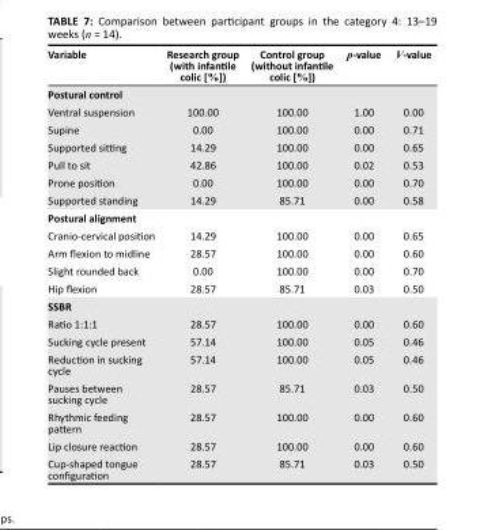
<table><thead><tr><td>Variable</td><td>Research group (with infantile colic [%])</td><td>Control group (without infantile colic [%])</td><td>p-value</td><td>V-value</td></tr></thead><tbody><tr><td colspan="5">Postural control</td></tr><tr><td>Ventral suspension</td><td>100.00</td><td>100.00</td><td>1.00</td><td>0.00</td></tr><tr><td>Supine</td><td>0.00</td><td>100.00</td><td>0.00</td><td>0.71</td></tr><tr><td>Supported sitting</td><td>14.29</td><td>100.00</td><td>0.00</td><td>0.65</td></tr><tr><td>Pull to sit</td><td>42.86</td><td>100.00</td><td>0.02</td><td>0.53</td></tr><tr><td>Prone position</td><td>0.00</td><td>100.00</td><td>0.00</td><td>0.70</td></tr><tr><td>Supported standing</td><td>14.29</td><td>85.71</td><td>0.00</td><td>0.58</td></tr><tr><td colspan="5">Postural alignment</td></tr><tr><td>Cranio-cervical position</td><td>14.29</td><td>100.00</td><td>0.00</td><td>0.65</td></tr><tr><td>Arm flexion to midline</td><td>28.57</td><td>100.00</td><td>0.00</td><td>0.60</td></tr><tr><td>Slight rounded back</td><td>0.00</td><td>100.00</td><td>0.00</td><td>0.70</td></tr><tr><td>Hip flexion</td><td>28.57</td><td>85.71</td><td>0.03</td><td>0.50</td></tr><tr><td colspan="5">SSBR</td></tr><tr><td>Ratio 1:1:1</td><td>28.57</td><td>100.00</td><td>0.00</td><td>0.60</td></tr><tr><td>Sucking cycle present</td><td>57.14</td><td>100.00</td><td>0.05</td><td>0.46</td></tr><tr><td>Reduction in sucking cycle</td><td>57.14</td><td>100.00</td><td>0.05</td><td>0.46</td></tr><tr><td>Pauses between sucking cycle</td><td>28.57</td><td>85.71</td><td>0.03</td><td>0.50</td></tr><tr><td>Rhythmic feeding pattern</td><td>28.57</td><td>100.00</td><td>0.00</td><td>0.60</td></tr><tr><td>Lip closure reaction</td><td>28.57</td><td>100.00</td><td>0.00</td><td>0.60</td></tr><tr><td>Cup-shaped tongue configuration</td><td>28.57</td><td>85.71</td><td>0.03</td><td>0.50</td></tr></tbody></table>